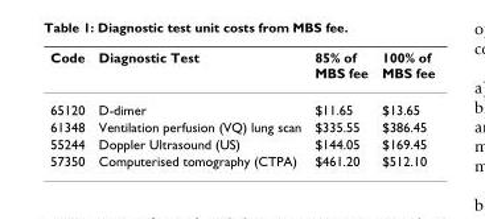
<table><thead><tr><td>Code</td><td>Diagnostic Test</td><td>85% of MBS fee</td><td>100% of MBS fee</td></tr></thead><tbody><tr><td>65120</td><td>D-dimer</td><td>$11.65</td><td>$13.65</td></tr><tr><td>61348</td><td>Ventilation perfusion (VQ) lung scan</td><td>$335.55</td><td>$386.45</td></tr><tr><td>55244</td><td>Doppler Ultrasound (US)</td><td>$144.05</td><td>$169.45</td></tr><tr><td>57350</td><td>Computerised tomography (CTPA)</td><td>$461.20</td><td>$512.10</td></tr></tbody></table>